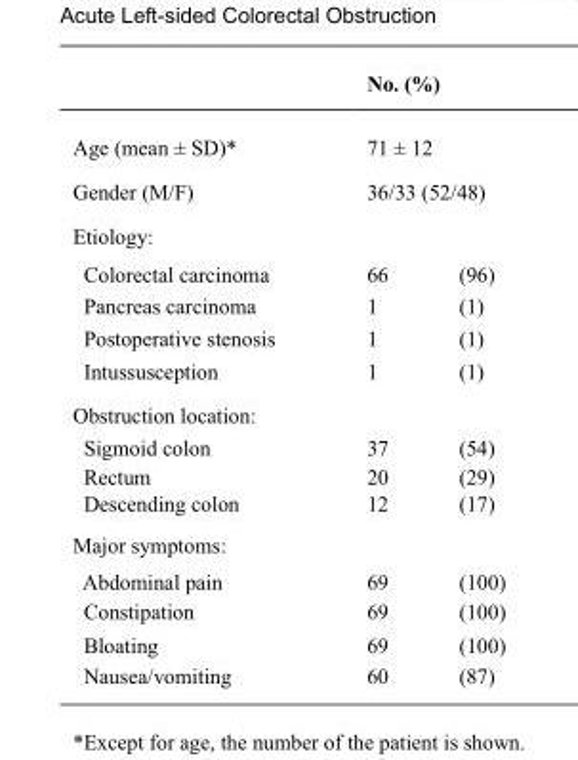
<table><thead><tr><td></td><td>No. (%)</td></tr></thead><tbody><tr><td>Age (mean ± SD)*</td><td>71 ± 12</td></tr><tr><td>Gender (M/F)</td><td>36/33 (52/48)</td></tr><tr><td colspan="2">Etiology:</td></tr><tr><td>Colorectal carcinoma</td><td>66 (96)</td></tr><tr><td>Pancreas carcinoma</td><td>1 (1)</td></tr><tr><td>Postoperative stenosis</td><td>1 (1)</td></tr><tr><td>Intussusception</td><td>1 (1)</td></tr><tr><td colspan="2">Obstruction location:</td></tr><tr><td>Sigmoid colon</td><td>37 (54)</td></tr><tr><td>Rectum</td><td>20 (29)</td></tr><tr><td>Descending colon</td><td>12 (17)</td></tr><tr><td colspan="2">Major symptoms:</td></tr><tr><td>Abdominal pain</td><td>69 (100)</td></tr><tr><td>Constipation</td><td>69 (100)</td></tr><tr><td>Bloating</td><td>69 (100)</td></tr><tr><td>Nausea/vomiting</td><td>60 (87)</td></tr></tbody></table>